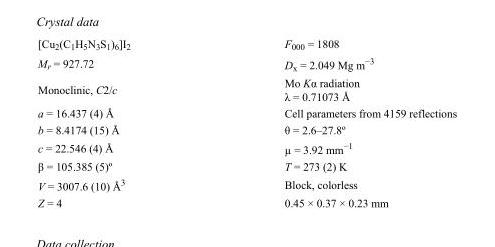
<table><tbody><tr><td>[Cu<sub>2</sub>(C<sub>1</sub>H<sub>5</sub>N<sub>3</sub>S<sub>1</sub>)<sub>6</sub>]I<sub>2</sub></td><td>F<sub>000</sub> = 1808</td></tr><tr><td>M<sub>r</sub> = 927.72</td><td>D<sub>x</sub> = 2.049 Mg m<sup>−3</sup></td></tr><tr><td>Monoclinic, C2/c</td><td>Mo Kα radiation λ = 0.71073 Å</td></tr><tr><td>a = 16.437 (4) Å</td><td>Cell parameters from 4159 reflections</td></tr><tr><td>b = 8.4174 (15) Å</td><td>θ = 2.6–27.8º</td></tr><tr><td>c = 22.546 (4) Å</td><td>µ = 3.92 mm<sup>−1</sup></td></tr><tr><td>β = 105.385 (5)º</td><td>T = 273 (2) K</td></tr><tr><td>V = 3007.6 (10) Å<sup>3</sup></td><td>Block, colorless</td></tr><tr><td>Z = 4</td><td>0.45 × 0.37 × 0.23 mm</td></tr></tbody></table>